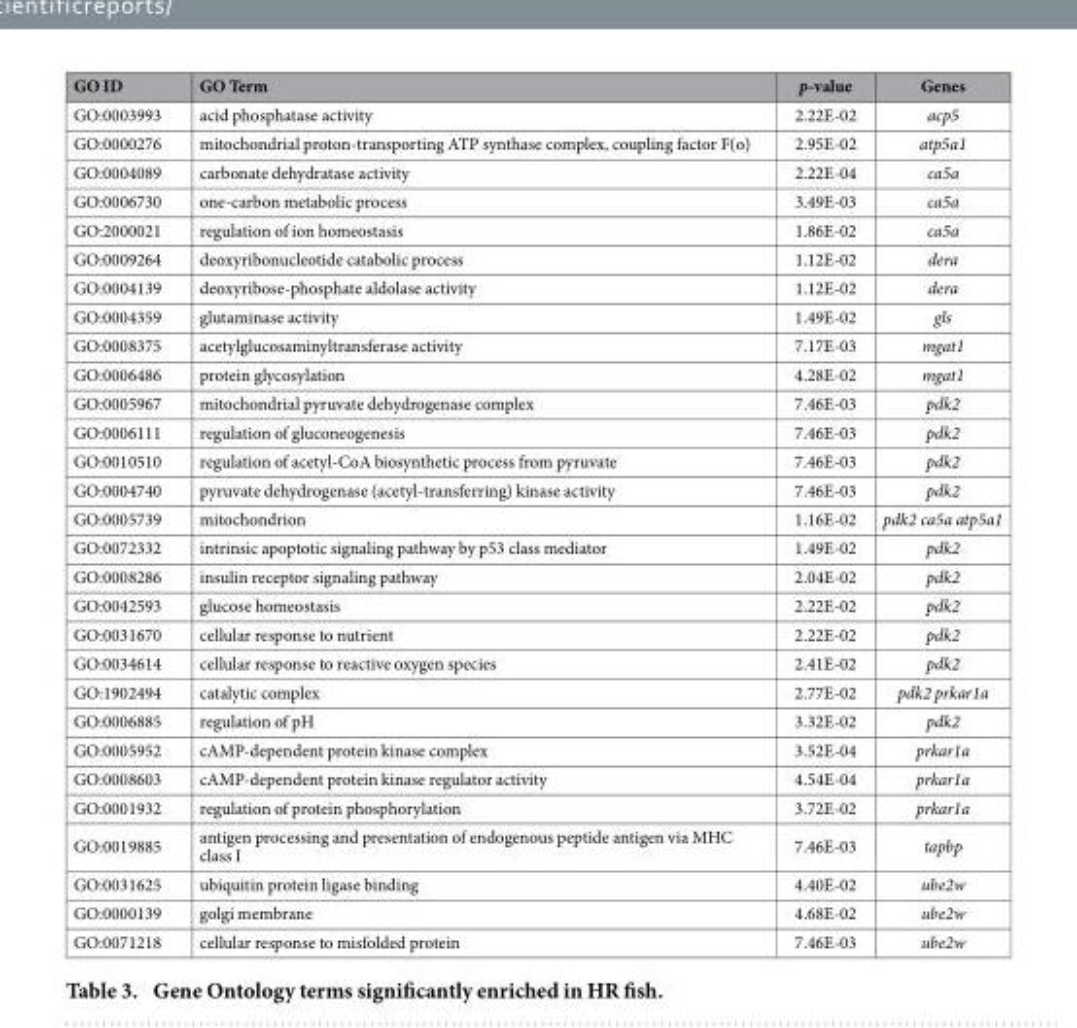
<table><thead><tr><td>GO ID</td><td>GO Term</td><td>p-value</td><td>Genes</td></tr></thead><tbody><tr><td>GO:0003993</td><td>acid phosphatase activity</td><td>2.22E-02</td><td>acp5</td></tr><tr><td>GO:0000276</td><td>mitochondrial proton-transporting ATP synthase complex, coupling factor F(o)</td><td>2.95E-02</td><td>atp5a1</td></tr><tr><td>GO:0004089</td><td>carbonate dehydratase activity</td><td>2.22E-04</td><td>ca5a</td></tr><tr><td>GO:0006730</td><td>one-carbon metabolic process</td><td>3.49E-03</td><td>ca5a</td></tr><tr><td>GO:2000021</td><td>regulation of ion homeostasis</td><td>1.86E-02</td><td>ca5a</td></tr><tr><td>GO:0009264</td><td>deoxyribonucleotide catabolic process</td><td>1.12E-02</td><td>dera</td></tr><tr><td>GO:0004139</td><td>deoxyribose-phosphate aldolase activity</td><td>1.12E-02</td><td>dera</td></tr><tr><td>GO:0004359</td><td>glutaminase activity</td><td>1.49E-02</td><td>gls</td></tr><tr><td>GO:0008375</td><td>acetylglucosaminyltransferase activity</td><td>7.17E-03</td><td>mgat1</td></tr><tr><td>GO:0006486</td><td>protein glycosylation</td><td>4.28E-02</td><td>mgat1</td></tr><tr><td>GO:0005967</td><td>mitochondrial pyruvate dehydrogenase complex</td><td>7.46E-03</td><td>pdk2</td></tr><tr><td>GO:0006111</td><td>regulation of gluconeogenesis</td><td>7.46E-03</td><td>pdk2</td></tr><tr><td>GO:0010510</td><td>regulation of acetyl-CoA biosynthetic process from pyruvate</td><td>7.46E-03</td><td>pdk2</td></tr><tr><td>GO:0004740</td><td>pyruvate dehydrogenase (acetyl-transferring) kinase activity</td><td>7.46E-03</td><td>pdk2</td></tr><tr><td>GO:0005739</td><td>mitochondrion</td><td>1.16E-02</td><td>pdk2 ca5a atp5a1</td></tr><tr><td>GO:0072332</td><td>intrinsic apoptotic signaling pathway by p53 class mediator</td><td>1.49E-02</td><td>pdk2</td></tr><tr><td>GO:0008286</td><td>insulin receptor signaling pathway</td><td>2.04E-02</td><td>pdk2</td></tr><tr><td>GO:0042593</td><td>glucose homeostasis</td><td>2.22E-02</td><td>pdk2</td></tr><tr><td>GO:0031670</td><td>cellular response to nutrient</td><td>2.22E-02</td><td>pdk2</td></tr><tr><td>GO:0034614</td><td>cellular response to reactive oxygen species</td><td>2.41E-02</td><td>pdk2</td></tr><tr><td>GO:1902494</td><td>catalytic complex</td><td>2.77E-02</td><td>pdk2 prkar1a</td></tr><tr><td>GO:0006885</td><td>regulation of pH</td><td>3.32E-02</td><td>pdk2</td></tr><tr><td>GO:0005952</td><td>cAMP-dependent protein kinase complex</td><td>3.52E-04</td><td>prkar1a</td></tr><tr><td>GO:0008603</td><td>cAMP-dependent protein kinase regulator activity</td><td>4.54E-04</td><td>prkar1a</td></tr><tr><td>GO:0001932</td><td>regulation of protein phosphorylation</td><td>3.72E-02</td><td>prkar1a</td></tr><tr><td>GO:0019885</td><td>antigen processing and presentation of endogenous peptide antigen via MHC class I</td><td>7.46E-03</td><td>tapbp</td></tr><tr><td>GO:0031625</td><td>ubiquitin protein ligase binding</td><td>4.40E-02</td><td>ube2w</td></tr><tr><td>GO:0000139</td><td>golgi membrane</td><td>4.68E-02</td><td>ube2w</td></tr><tr><td>GO:0071218</td><td>cellular response to misfolded protein</td><td>7.46E-03</td><td>ube2w</td></tr></tbody></table>